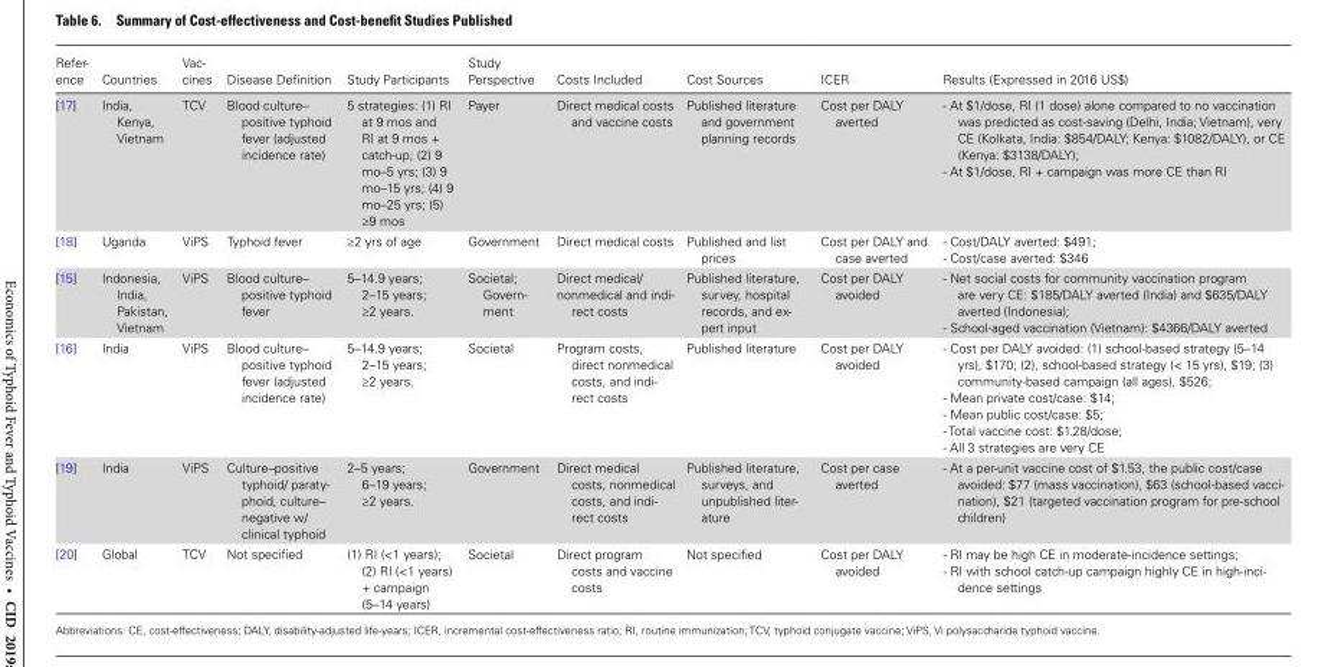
<table><thead><tr><td>Refer- ence</td><td>Countries</td><td>Vac- cines</td><td>Disease Definition</td><td>Study Participants</td><td>Study Perspective</td><td>Costs Included</td><td>Cost Sources</td><td>ICER</td><td>Results (Expressed in 2016 US$)</td></tr></thead><tbody><tr><td>[17]</td><td>India, Kenya, Vietnam</td><td>TCV</td><td>Blood culture– positive typhoid fever (adjusted incidence rate)</td><td>5 strategies: (1) RI at 9 mos and RI at 9 mos + catch-up; (2) 9 mo–5 yrs; (3) 9 mo–15 yrs; (4) 9 mo–25 yrs; (5) ≥9 mos</td><td>Payer</td><td>Direct medical costs and vaccine costs</td><td>Published literature and government planning records</td><td>Cost per DALY averted</td><td>- At $1/dose, RI (1 dose) alone compared to no vaccination was predicted as cost-saving (Delhi, India; Vietnam), very CE (Kolkata, India: $854/DALY; Kenya: $1082/DALY), or CE (Kenya: $3138/DALY); - At $1/dose, RI + campaign was more CE than RI</td></tr><tr><td>[18]</td><td>Uganda</td><td>ViPS</td><td>Typhoid fever</td><td>≥2 yrs of age</td><td>Government</td><td>Direct medical costs</td><td>Published and list prices</td><td>Cost per DALY and case averted</td><td>- Cost/DALY averted: $491; - Cost/case averted: $346</td></tr><tr><td>[15]</td><td>Indonesia, India, Pakistan, Vietnam</td><td>ViPS</td><td>Blood culture– positive typhoid fever</td><td>5–14.9 years; 2–15 years; ≥2 years.</td><td>Societal; Govern- ment</td><td>Direct medical/ nonmedical and indi- rect costs</td><td>Published literature, survey, hospital records, and ex- pert input</td><td>Cost per DALY avoided</td><td>- Net social costs for community vaccination program are very CE: $185/DALY averted (India) and $635/DALY averted (Indonesia); - School-aged vaccination (Vietnam): $4366/DALY averted</td></tr><tr><td>[16]</td><td>India</td><td>ViPS</td><td>Blood culture– positive typhoid fever (adjusted incidence rate)</td><td>5–14.9 years; 2–15 years; ≥2 years.</td><td>Societal</td><td>Program costs, direct nonmedical costs, and indi- rect costs</td><td>Published literature</td><td>Cost per DALY avoided</td><td>- Cost per DALY avoided: (1) school-based strategy (5–14 yrs), $170; (2), school-based strategy (&lt; 15 yrs), $19; (3) community-based campaign (all ages), $526; - Mean private cost/case: $14; - Mean public cost/case: $5; - Total vaccine cost: $1.28/dose; - All 3 strategies are very CE</td></tr><tr><td>[19]</td><td>India</td><td>ViPS</td><td>Culture–positive typhoid/ paraty- phoid, culture– negative w/ clinical typhoid</td><td>2–5 years; 6–19 years; ≥2 years.</td><td>Government</td><td>Direct medical costs, nonmedical costs, and indi- rect costs</td><td>Published literature, surveys, and unpublished liter- ature</td><td>Cost per case averted</td><td>- At a per-unit vaccine cost of $1.53, the public cost/case avoided: $77 (mass vaccination), $63 (school-based vacci- nation), $21 (targeted vaccination program for pre-school children)</td></tr><tr><td>[20]</td><td>Global</td><td>TCV</td><td>Not specified</td><td>(1) RI (&lt;1 years); (2) RI (&lt;1 years) + campaign (5–14 years)</td><td>Societal</td><td>Direct program costs and vaccine costs</td><td>Not specified</td><td>Cost per DALY avoided</td><td>- RI may be high CE in moderate-incidence settings; - RI with school catch-up campaign highly CE in high-inci- dence settings</td></tr></tbody></table>